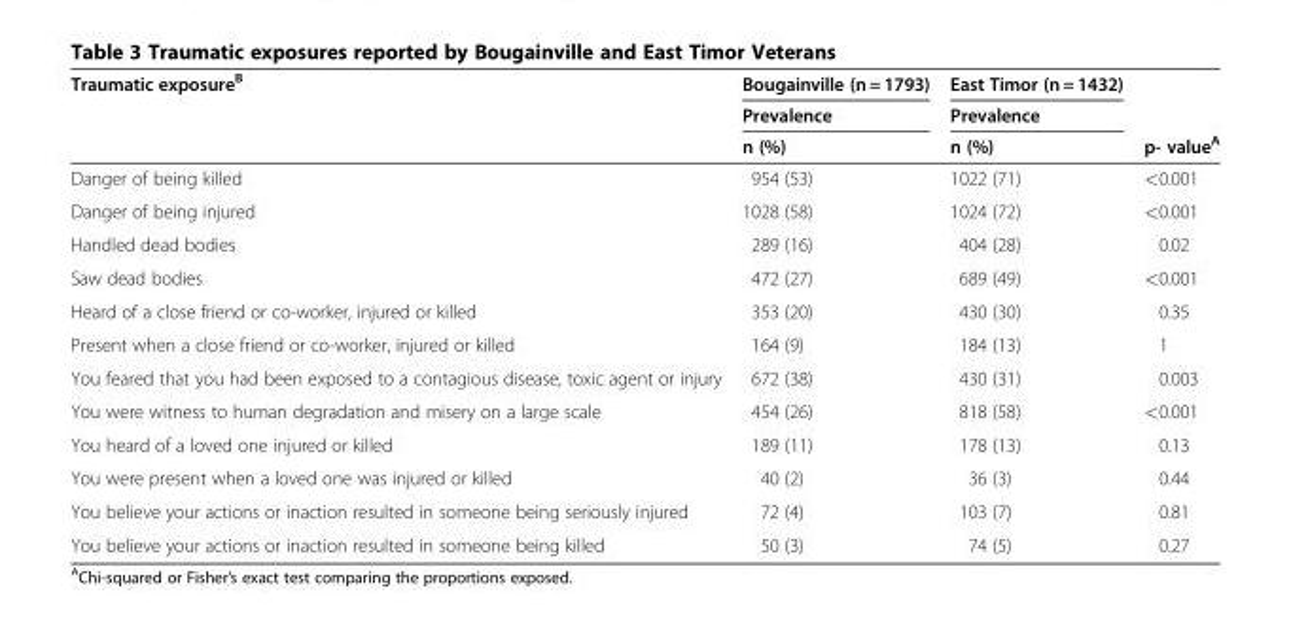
<table><thead><tr><td rowspan="3">Traumatic exposure<sup>B</sup></td><td rowspan="3">Bougainville (n = 1793) Prevalence n (%)</td><td rowspan="3">East Timor (n = 1432) Prevalence n (%)</td><td rowspan="3">p- value<sup>A</sup></td></tr><tr></tr><tr></tr></thead><tbody><tr><td>Danger of being killed</td><td>954 (53)</td><td>1022 (71)</td><td>&lt;0.001</td></tr><tr><td>Danger of being injured</td><td>1028 (58)</td><td>1024 (72)</td><td>&lt;0.001</td></tr><tr><td>Handled dead bodies</td><td>289 (16)</td><td>404 (28)</td><td>0.02</td></tr><tr><td>Saw dead bodies</td><td>472 (27)</td><td>689 (49)</td><td>&lt;0.001</td></tr><tr><td>Heard of a close friend or co-worker, injured or killed</td><td>353 (20)</td><td>430 (30)</td><td>0.35</td></tr><tr><td>Present when a close friend or co-worker, injured or killed</td><td>164 (9)</td><td>184 (13)</td><td>1</td></tr><tr><td>You feared that you had been exposed to a contagious disease, toxic agent or injury</td><td>672 (38)</td><td>430 (31)</td><td>0.003</td></tr><tr><td>You were witness to human degradation and misery on a large scale</td><td>454 (26)</td><td>818 (58)</td><td>&lt;0.001</td></tr><tr><td>You heard of a loved one injured or killed</td><td>189 (11)</td><td>178 (13)</td><td>0.13</td></tr><tr><td>You were present when a loved one was injured or killed</td><td>40 (2)</td><td>36 (3)</td><td>0.44</td></tr><tr><td>You believe your actions or inaction resulted in someone being seriously injured</td><td>72 (4)</td><td>103 (7)</td><td>0.81</td></tr><tr><td>You believe your actions or inaction resulted in someone being killed</td><td>50 (3)</td><td>74 (5)</td><td>0.27</td></tr></tbody></table>